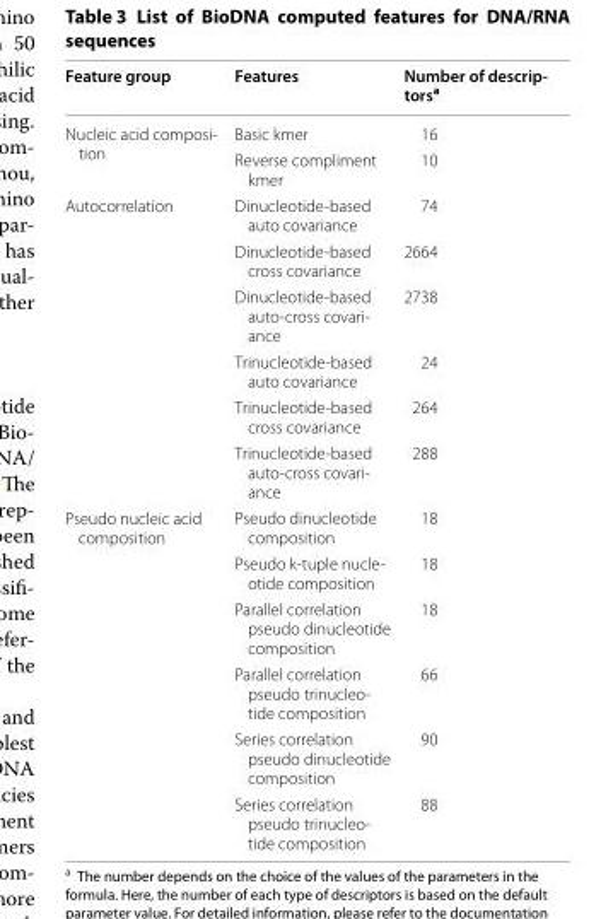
<table><thead><tr><td>Feature group</td><td>Features</td><td>Number of descrip- torsa</td></tr></thead><tbody><tr><td rowspan="2">Nucleic acid composi‑ tion</td><td>Basic kmer</td><td>16</td></tr><tr><td>Reverse compliment kmer</td><td>10</td></tr><tr><td rowspan="6">Autocorrelation</td><td>Dinucleotide‑based auto covariance</td><td>74</td></tr><tr><td>Dinucleotide‑based cross covariance</td><td>2664</td></tr><tr><td>Dinucleotide‑based auto‑cross covari‑ ance</td><td>2738</td></tr><tr><td>Trinucleotide‑based auto covariance</td><td>24</td></tr><tr><td>Trinucleotide‑based cross covariance</td><td>264</td></tr><tr><td>Trinucleotide‑based auto‑cross covari‑ ance</td><td>288</td></tr><tr><td rowspan="6">Pseudo nucleic acid composition</td><td>Pseudo dinucleotide composition</td><td>18</td></tr><tr><td>Pseudo k‑tuple nucle‑ otide composition</td><td>18</td></tr><tr><td>Parallel correlation pseudo dinucleotide composition</td><td>18</td></tr><tr><td>Parallel correlation pseudo trinucleo‑ tide composition</td><td>66</td></tr><tr><td>Series correlation pseudo dinucleotide composition</td><td>90</td></tr><tr><td>Series correlation pseudo trinucleo‑ tide composition</td><td>88</td></tr></tbody></table>